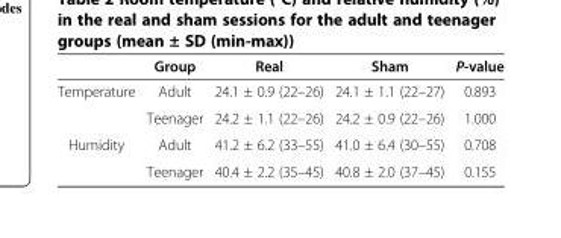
<table><thead><tr><td></td><td>Group</td><td>Real</td><td>Sham</td><td>P-value</td></tr></thead><tbody><tr><td rowspan="2">Temperature</td><td>Adult</td><td>24.1 ± 0.9 (22–26)</td><td>24.1 ± 1.1 (22–27)</td><td>0.893</td></tr><tr><td>Teenager</td><td>24.2 ± 1.1 (22–26)</td><td>24.2 ± 0.9 (22–26)</td><td>1.000</td></tr><tr><td rowspan="2">Humidity</td><td>Adult</td><td>41.2 ± 6.2 (33–55)</td><td>41.0 ± 6.4 (30–55)</td><td>0.708</td></tr><tr><td>Teenager</td><td>40.4 ± 2.2 (35–45)</td><td>40.8 ± 2.0 (37–45)</td><td>0.155</td></tr></tbody></table>